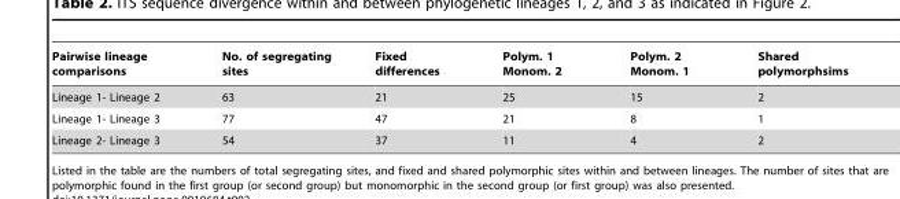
<table><thead><tr><td>Pairwise lineage comparisons</td><td>No. of segregating sites</td><td>Fixed differences</td><td>Polym. 1 Monom. 2</td><td>Polym. 2 Monom. 1</td><td>Shared polymorphsims</td></tr></thead><tbody><tr><td>Lineage 1- Lineage 2</td><td>63</td><td>21</td><td>25</td><td>15</td><td>2</td></tr><tr><td>Lineage 1- Lineage 3</td><td>77</td><td>47</td><td>21</td><td>8</td><td>1</td></tr><tr><td>Lineage 2- Lineage 3</td><td>54</td><td>37</td><td>11</td><td>4</td><td>2</td></tr></tbody></table>